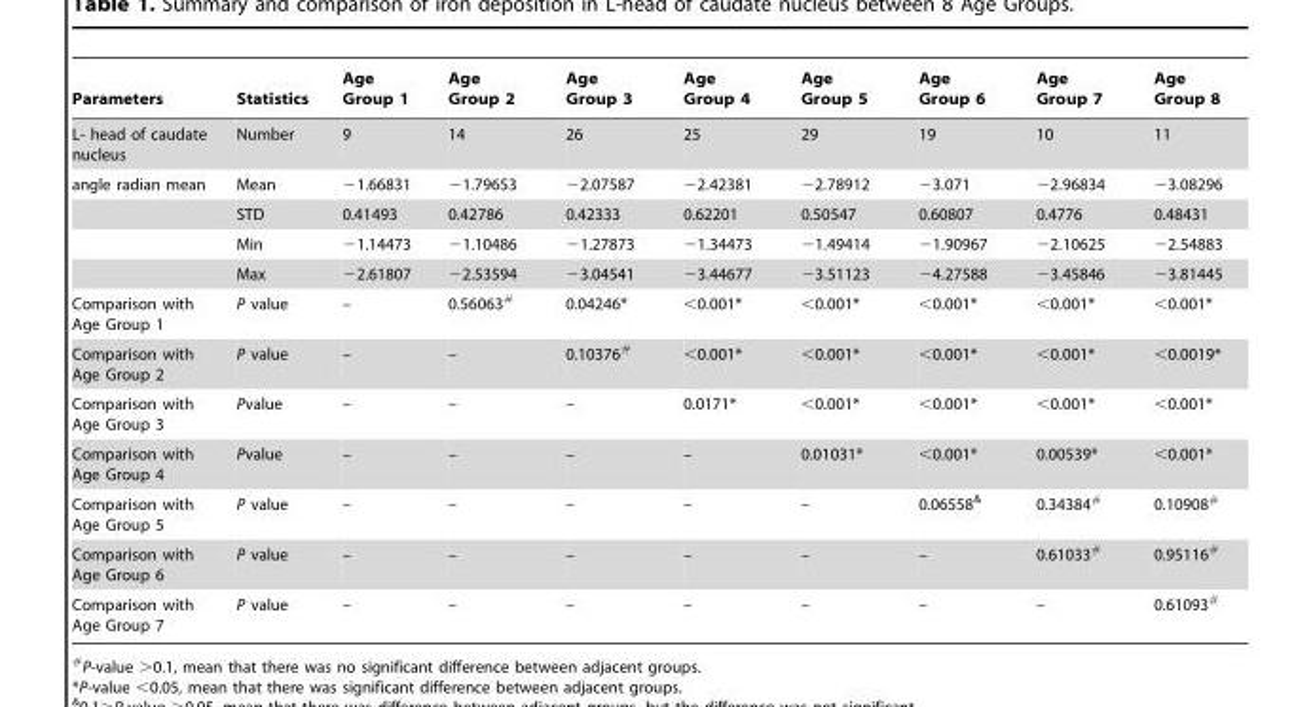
<table><thead><tr><td>Parameters</td><td>Statistics</td><td>Age Group 1</td><td>Age Group 2</td><td>Age Group 3</td><td>Age Group 4</td><td>Age Group 5</td><td>Age Group 6</td><td>Age Group 7</td><td>Age Group 8</td></tr></thead><tbody><tr><td>L- head of caudate nucleus</td><td>Number</td><td>9</td><td>14</td><td>26</td><td>25</td><td>29</td><td>19</td><td>10</td><td>11</td></tr><tr><td rowspan="4">angle radian mean</td><td>Mean</td><td>−1.66831</td><td>−1.79653</td><td>−2.07587</td><td>−2.42381</td><td>−2.78912</td><td>−3.071</td><td>−2.96834</td><td>−3.08296</td></tr><tr><td>STD</td><td>0.41493</td><td>0.42786</td><td>0.42333</td><td>0.62201</td><td>0.50547</td><td>0.60807</td><td>0.4776</td><td>0.48431</td></tr><tr><td>Min</td><td>−1.14473</td><td>−1.10486</td><td>−1.27873</td><td>−1.34473</td><td>−1.49414</td><td>−1.90967</td><td>−2.10625</td><td>−2.54883</td></tr><tr><td>Max</td><td>−2.61807</td><td>−2.53594</td><td>−3.04541</td><td>−3.44677</td><td>−3.51123</td><td>−4.27588</td><td>−3.45846</td><td>−3.81445</td></tr><tr><td>Comparison with Age Group 1</td><td>P value</td><td>–</td><td>0.56063#</td><td>0.04246*</td><td>&lt;0.001*</td><td>&lt;0.001*</td><td>&lt;0.001*</td><td>&lt;0.001*</td><td>&lt;0.001*</td></tr><tr><td>Comparison with Age Group 2</td><td>P value</td><td>–</td><td>–</td><td>0.10376#</td><td>&lt;0.001*</td><td>&lt;0.001*</td><td>&lt;0.001*</td><td>&lt;0.001*</td><td>&lt;0.0019*</td></tr><tr><td>Comparison with Age Group 3</td><td>Pvalue</td><td>–</td><td>–</td><td>–</td><td>0.0171*</td><td>&lt;0.001*</td><td>&lt;0.001*</td><td>&lt;0.001*</td><td>&lt;0.001*</td></tr><tr><td>Comparison with Age Group 4</td><td>Pvalue</td><td>–</td><td>–</td><td>–</td><td>–</td><td>0.01031*</td><td>&lt;0.001*</td><td>0.00539*</td><td>&lt;0.001*</td></tr><tr><td>Comparison with Age Group 5</td><td>P value</td><td>–</td><td>–</td><td>–</td><td>–</td><td>–</td><td>0.06558&amp;</td><td>0.34384#</td><td>0.10908#</td></tr><tr><td>Comparison with Age Group 6</td><td>P value</td><td>–</td><td>–</td><td>–</td><td>–</td><td>–</td><td>–</td><td>0.61033#</td><td>0.95116#</td></tr><tr><td>Comparison with Age Group 7</td><td>P value</td><td>–</td><td>–</td><td>–</td><td>–</td><td>–</td><td>–</td><td>–</td><td>0.61093#</td></tr></tbody></table>